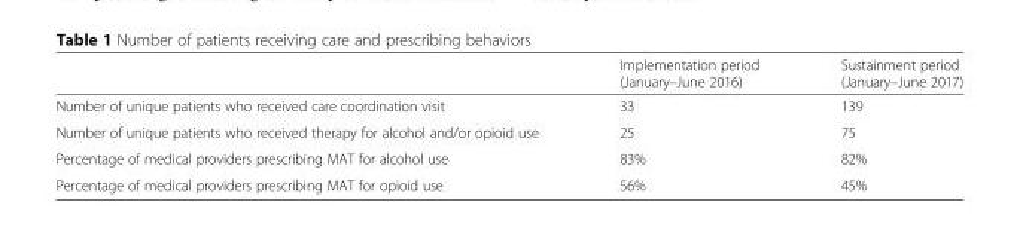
<table><thead><tr><td></td><td>Implementation period (January–June 2016)</td><td>Sustainment period (January–June 2017)</td></tr></thead><tbody><tr><td>Number of unique patients who received care coordination visit</td><td>33</td><td>139</td></tr><tr><td>Number of unique patients who received therapy for alcohol and/or opioid use</td><td>25</td><td>75</td></tr><tr><td>Percentage of medical providers prescribing MAT for alcohol use</td><td>83%</td><td>82%</td></tr><tr><td>Percentage of medical providers prescribing MAT for opioid use</td><td>56%</td><td>45%</td></tr></tbody></table>